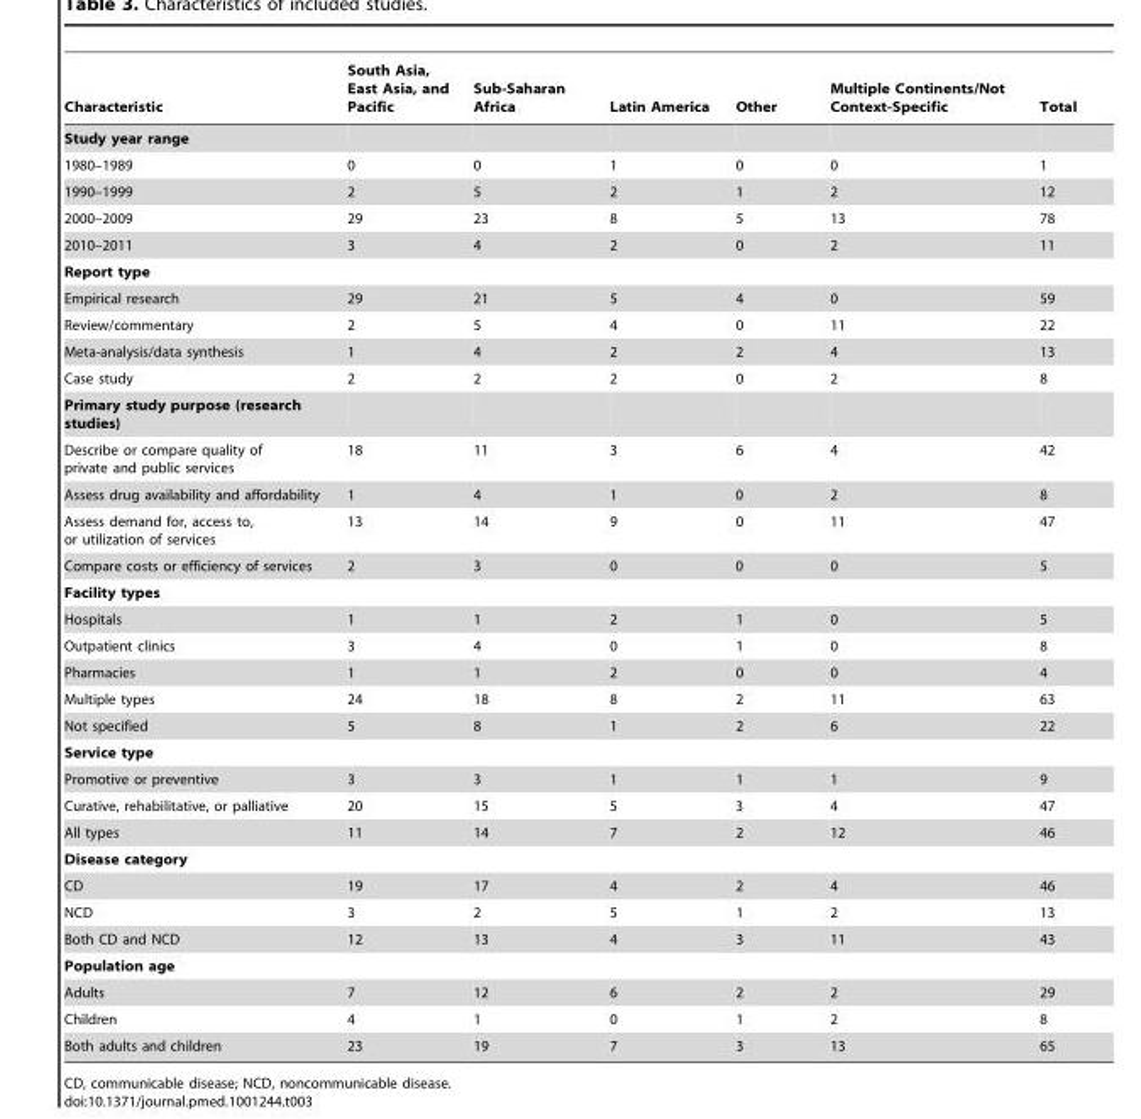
<table><thead><tr><td>Characteristic</td><td>South Asia, East Asia, and Pacific</td><td>Sub-Saharan Africa</td><td>Latin America</td><td>Other</td><td>Multiple Continents/Not Context-Specific</td><td>Total</td></tr></thead><tbody><tr><td colspan="7">Study year range</td></tr><tr><td>1980–1989</td><td>0</td><td>0</td><td>1</td><td>0</td><td>0</td><td>1</td></tr><tr><td>1990–1999</td><td>2</td><td>5</td><td>2</td><td>1</td><td>2</td><td>12</td></tr><tr><td>2000–2009</td><td>29</td><td>23</td><td>8</td><td>5</td><td>13</td><td>78</td></tr><tr><td>2010–2011</td><td>3</td><td>4</td><td>2</td><td>0</td><td>2</td><td>11</td></tr><tr><td colspan="7">Report type</td></tr><tr><td>Empirical research</td><td>29</td><td>21</td><td>5</td><td>4</td><td>0</td><td>59</td></tr><tr><td>Review/commentary</td><td>2</td><td>5</td><td>4</td><td>0</td><td>11</td><td>22</td></tr><tr><td>Meta-analysis/data synthesis</td><td>1</td><td>4</td><td>2</td><td>2</td><td>4</td><td>13</td></tr><tr><td>Case study</td><td>2</td><td>2</td><td>2</td><td>0</td><td>2</td><td>8</td></tr><tr><td colspan="7">Primary study purpose (research studies)</td></tr><tr><td>Describe or compare quality of private and public services</td><td>18</td><td>11</td><td>3</td><td>6</td><td>4</td><td>42</td></tr><tr><td>Assess drug availability and affordability</td><td>1</td><td>4</td><td>1</td><td>0</td><td>2</td><td>8</td></tr><tr><td>Assess demand for, access to, or utilization of services</td><td>13</td><td>14</td><td>9</td><td>0</td><td>11</td><td>47</td></tr><tr><td>Compare costs or efficiency of services</td><td>2</td><td>3</td><td>0</td><td>0</td><td>0</td><td>5</td></tr><tr><td colspan="7">Facility types</td></tr><tr><td>Hospitals</td><td>1</td><td>1</td><td>2</td><td>1</td><td>0</td><td>5</td></tr><tr><td>Outpatient clinics</td><td>3</td><td>4</td><td>0</td><td>1</td><td>0</td><td>8</td></tr><tr><td>Pharmacies</td><td>1</td><td>1</td><td>2</td><td>0</td><td>0</td><td>4</td></tr><tr><td>Multiple types</td><td>24</td><td>18</td><td>8</td><td>2</td><td>11</td><td>63</td></tr><tr><td>Not specified</td><td>5</td><td>8</td><td>1</td><td>2</td><td>6</td><td>22</td></tr><tr><td colspan="7">Service type</td></tr><tr><td>Promotive or preventive</td><td>3</td><td>3</td><td>1</td><td>1</td><td>1</td><td>9</td></tr><tr><td>Curative, rehabilitative, or palliative</td><td>20</td><td>15</td><td>5</td><td>3</td><td>4</td><td>47</td></tr><tr><td>All types</td><td>11</td><td>14</td><td>7</td><td>2</td><td>12</td><td>46</td></tr><tr><td colspan="7">Disease category</td></tr><tr><td>CD</td><td>19</td><td>17</td><td>4</td><td>2</td><td>4</td><td>46</td></tr><tr><td>NCD</td><td>3</td><td>2</td><td>5</td><td>1</td><td>2</td><td>13</td></tr><tr><td>Both CD and NCD</td><td>12</td><td>13</td><td>4</td><td>3</td><td>11</td><td>43</td></tr><tr><td colspan="7">Population age</td></tr><tr><td>Adults</td><td>7</td><td>12</td><td>6</td><td>2</td><td>2</td><td>29</td></tr><tr><td>Children</td><td>4</td><td>1</td><td>0</td><td>1</td><td>2</td><td>8</td></tr><tr><td>Both adults and children</td><td>23</td><td>19</td><td>7</td><td>3</td><td>13</td><td>65</td></tr></tbody></table>